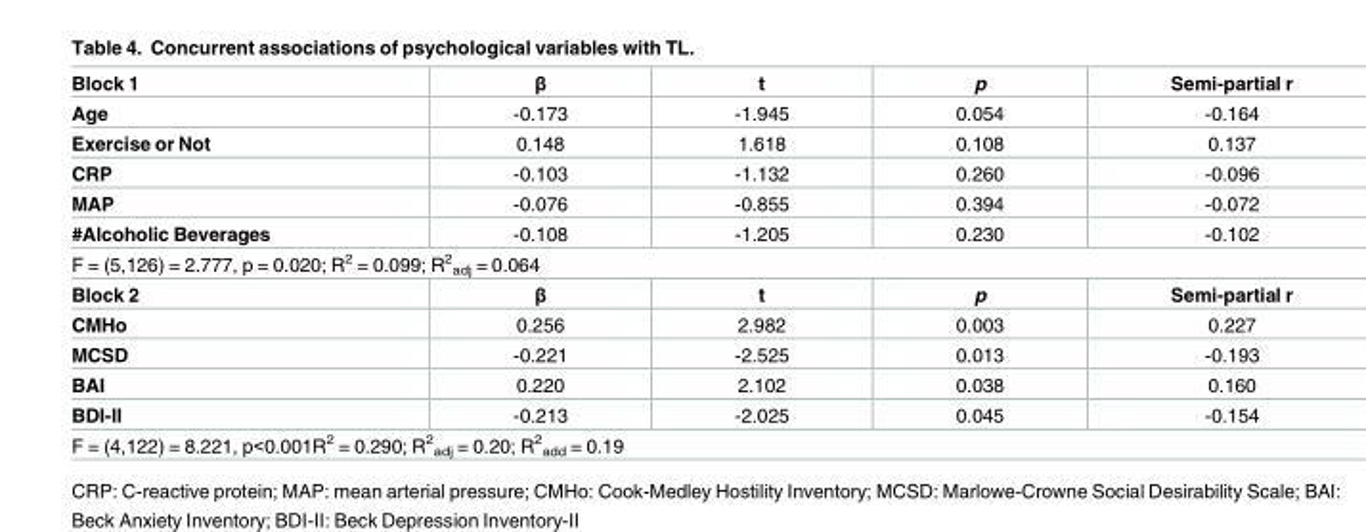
<table><tbody><tr><td>Block 1</td><td>β</td><td>t</td><td>p</td><td>Semi-partial r</td></tr><tr><td>Age</td><td>-0.173</td><td>-1.945</td><td>0.054</td><td>-0.164</td></tr><tr><td>Exercise or Not</td><td>0.148</td><td>1.618</td><td>0.108</td><td>0.137</td></tr><tr><td>CRP</td><td>-0.103</td><td>-1.132</td><td>0.260</td><td>-0.096</td></tr><tr><td>MAP</td><td>-0.076</td><td>-0.855</td><td>0.394</td><td>-0.072</td></tr><tr><td>#Alcoholic Beverages</td><td>-0.108</td><td>-1.205</td><td>0.230</td><td>-0.102</td></tr><tr><td colspan="5">F = (5,126) = 2.777, p = 0.020; R<sup>2</sup> = 0.099; R<sup>2</sup> <sub>adj</sub> = 0.064</td></tr><tr><td>Block 2</td><td>β</td><td>t</td><td>p</td><td>Semi-partial r</td></tr><tr><td>CMHo</td><td>0.256</td><td>2.982</td><td>0.003</td><td>0.227</td></tr><tr><td>MCSD</td><td>-0.221</td><td>-2.525</td><td>0.013</td><td>-0.193</td></tr><tr><td>BAI</td><td>0.220</td><td>2.102</td><td>0.038</td><td>0.160</td></tr><tr><td>BDI-II</td><td>-0.213</td><td>-2.025</td><td>0.045</td><td>-0.154</td></tr><tr><td colspan="5">F = (4,122) = 8.221, p&lt;0.001R<sup>2</sup> = 0.290; R<sup>2</sup> <sub>adj</sub> = 0.20; R<sup>2</sup> <sub>add</sub> = 0.19</td></tr></tbody></table>